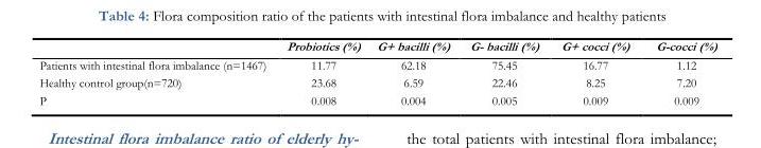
<table><thead><tr><td></td><td>Probiotics (%)</td><td>G+ bacilli (%)</td><td>G- bacilli (%)</td><td>G+ cocci (%)</td><td>G-cocci (%)</td></tr></thead><tbody><tr><td>Patients with intestinal flora imbalance (n=1467)</td><td>11.77</td><td>62.18</td><td>75.45</td><td>16.77</td><td>1.12</td></tr><tr><td>Healthy control group(n=720)</td><td>23.68</td><td>6.59</td><td>22.46</td><td>8.25</td><td>7.20</td></tr><tr><td>P</td><td>0.008</td><td>0.004</td><td>0.005</td><td>0.009</td><td>0.009</td></tr></tbody></table>